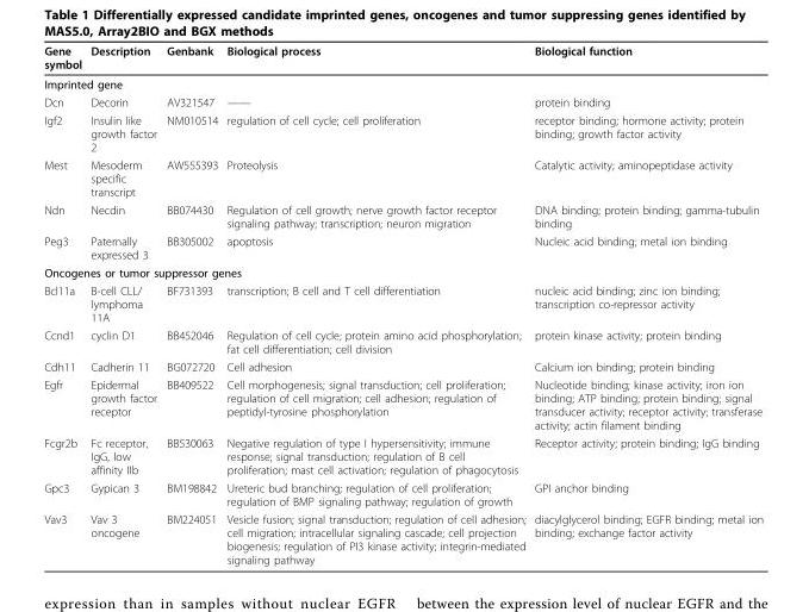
<table><thead><tr><td>Gene symbol</td><td>Description</td><td>Genbank</td><td>Biological process</td><td>Biological function</td></tr></thead><tbody><tr><td colspan="5">Imprinted gene</td></tr><tr><td>Dcn</td><td>Decorin</td><td>AV321547</td><td>——</td><td>protein binding</td></tr><tr><td>Igf2</td><td>Insulin like growth factor 2</td><td>NM010514</td><td>regulation of cell cycle; cell proliferation</td><td>receptor binding; hormone activity; protein binding; growth factor activity</td></tr><tr><td>Mest</td><td>Mesoderm specific transcript</td><td>AW555393</td><td>Proteolysis</td><td>Catalytic activity; aminopeptidase activity</td></tr><tr><td>Ndn</td><td>Necdin</td><td>BB074430</td><td>Regulation of cell growth; nerve growth factor receptor signaling pathway; transcription; neuron migration</td><td>DNA binding; protein binding; gamma-tubulin binding</td></tr><tr><td>Peg3</td><td>Paternally expressed 3</td><td>BB305002</td><td>apoptosis</td><td>Nucleic acid binding; metal ion binding</td></tr><tr><td colspan="5">Oncogenes or tumor suppressor genes</td></tr><tr><td>Bcl11a</td><td>B-cell CLL/ lymphoma 11A</td><td>BF731393</td><td>transcription; B cell and T cell differentiation</td><td>nucleic acid binding; zinc ion binding; transcription co-repressor activity</td></tr><tr><td>Ccnd1</td><td>cyclin D1</td><td>BB452046</td><td>Regulation of cell cycle; protein amino acid phosphorylation; fat cell differentiation; cell division</td><td>protein kinase activity; protein binding</td></tr><tr><td>Cdh11</td><td>Cadherin 11</td><td>BG072720</td><td>Cell adhesion</td><td>Calcium ion binding; protein binding</td></tr><tr><td>Egfr</td><td>Epidermal growth factor receptor</td><td>BB409522</td><td>Cell morphogenesis; signal transduction; cell proliferation; regulation of cell migration; cell adhesion; regulation of peptidyl-tyrosine phosphorylation</td><td>Nucleotide binding; kinase activity; iron ion binding; ATP binding; protein binding; signal transducer activity; receptor activity; transferase activity; actin filament binding</td></tr><tr><td>Fcgr2b</td><td>Fc receptor, IgG, low affinity IIb</td><td>BB530063</td><td>Negative regulation of type I hypersensitivity; immune response; signal transduction; regulation of B cell proliferation; mast cell activation; regulation of phagocytosis</td><td>Receptor activity; protein binding; IgG binding</td></tr><tr><td>Gpc3</td><td>Gypican 3</td><td>BM198842</td><td>Ureteric bud branching; regulation of cell proliferation; regulation of BMP signaling pathway; regulation of growth</td><td>GPI anchor binding</td></tr><tr><td>Vav3</td><td>Vav 3 oncogene</td><td>BM224051</td><td>Vesicle fusion; signal transduction; regulation of cell adhesion; cell migration; intracellular signaling cascade; cell projection biogenesis; regulation of PI3 kinase activity; integrin-mediated signaling pathway</td><td>diacylglycerol binding; EGFR binding; metal ion binding; exchange factor activity</td></tr></tbody></table>